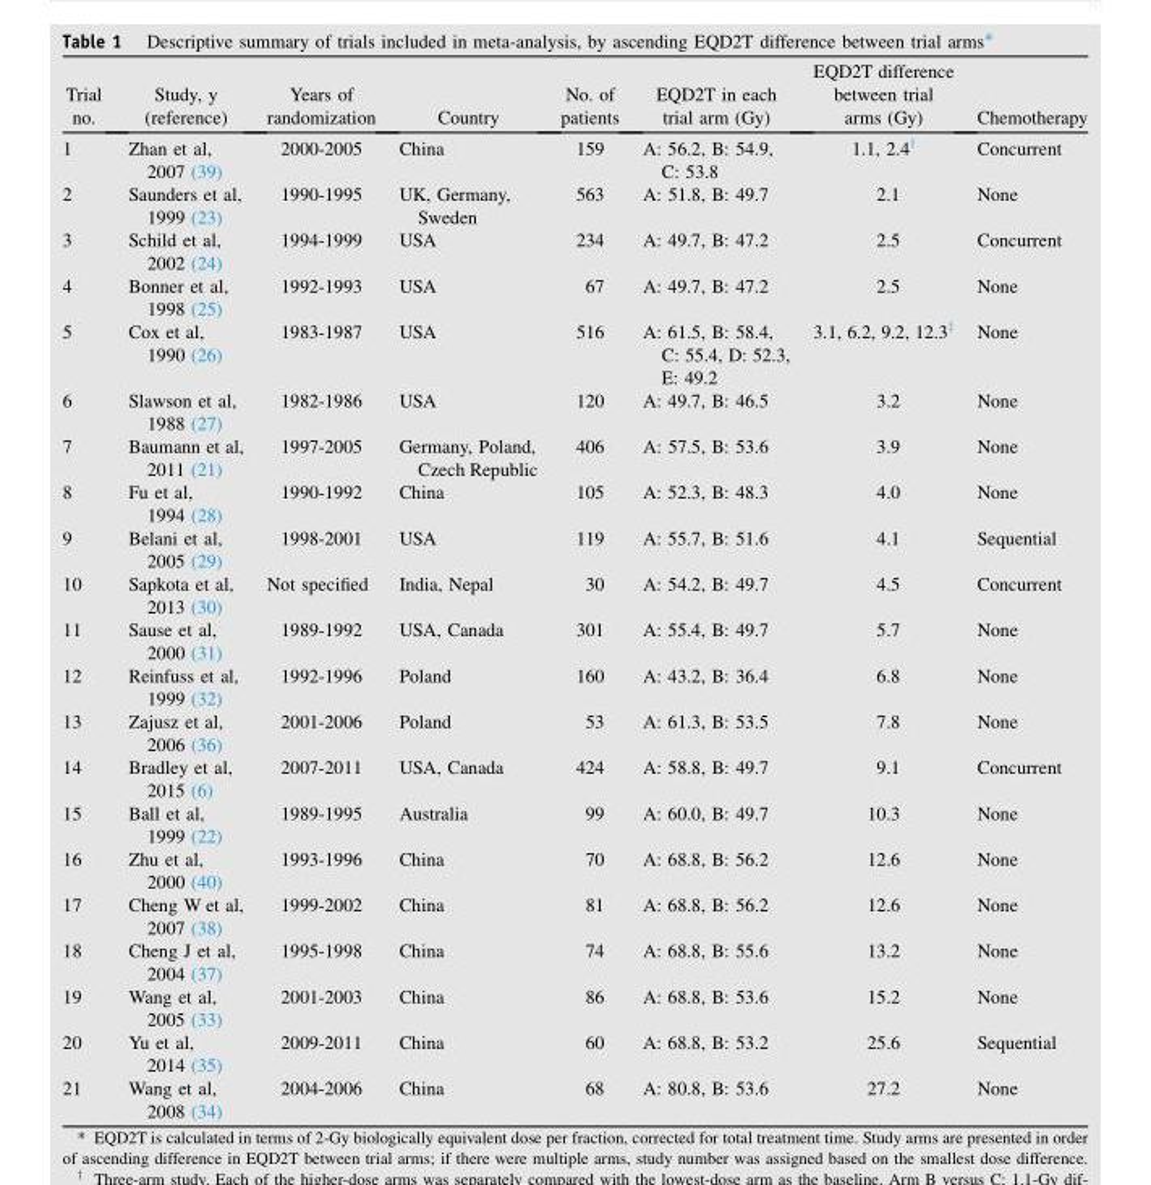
<table><thead><tr><td>Trial no.</td><td>Study, y (reference)</td><td>Years of randomization</td><td>Country</td><td>No. of patients</td><td>EQD2T in each trial arm (Gy)</td><td>EQD2T difference between trial arms (Gy)</td><td>Chemotherapy</td></tr></thead><tbody><tr><td>1</td><td>Zhan et al, 2007 (39)</td><td>2000-2005</td><td>China</td><td>159</td><td>A: 56.2, B: 54.9, C: 53.8</td><td>1.1, 2.4†</td><td>Concurrent</td></tr><tr><td>2</td><td>Saunders et al, 1999 (23)</td><td>1990-1995</td><td>UK, Germany, Sweden</td><td>563</td><td>A: 51.8, B: 49.7</td><td>2.1</td><td>None</td></tr><tr><td>3</td><td>Schild et al, 2002 (24)</td><td>1994-1999</td><td>USA</td><td>234</td><td>A: 49.7, B: 47.2</td><td>2.5</td><td>Concurrent</td></tr><tr><td>4</td><td>Bonner et al, 1998 (25)</td><td>1992-1993</td><td>USA</td><td>67</td><td>A: 49.7, B: 47.2</td><td>2.5</td><td>None</td></tr><tr><td>5</td><td>Cox et al, 1990 (26)</td><td>1983-1987</td><td>USA</td><td>516</td><td>A: 61.5, B: 58.4, C: 55.4, D: 52.3, E: 49.2</td><td>3.1, 6.2, 9.2, 12.3‡</td><td>None</td></tr><tr><td>6</td><td>Slawson et al, 1988 (27)</td><td>1982-1986</td><td>USA</td><td>120</td><td>A: 49.7, B: 46.5</td><td>3.2</td><td>None</td></tr><tr><td>7</td><td>Baumann et al, 2011 (21)</td><td>1997-2005</td><td>Germany, Poland, Czech Republic</td><td>406</td><td>A: 57.5, B: 53.6</td><td>3.9</td><td>None</td></tr><tr><td>8</td><td>Fu et al, 1994 (28)</td><td>1990-1992</td><td>China</td><td>105</td><td>A: 52.3, B: 48.3</td><td>4.0</td><td>None</td></tr><tr><td>9</td><td>Belani et al, 2005 (29)</td><td>1998-2001</td><td>USA</td><td>119</td><td>A: 55.7, B: 51.6</td><td>4.1</td><td>Sequential</td></tr><tr><td>10</td><td>Sapkota et al, 2013 (30)</td><td>Not specified</td><td>India, Nepal</td><td>30</td><td>A: 54.2, B: 49.7</td><td>4.5</td><td>Concurrent</td></tr><tr><td>11</td><td>Sause et al, 2000 (31)</td><td>1989-1992</td><td>USA, Canada</td><td>301</td><td>A: 55.4, B: 49.7</td><td>5.7</td><td>None</td></tr><tr><td>12</td><td>Reinfuss et al, 1999 (32)</td><td>1992-1996</td><td>Poland</td><td>160</td><td>A: 43.2, B: 36.4</td><td>6.8</td><td>None</td></tr><tr><td>13</td><td>Zajusz et al, 2006 (36)</td><td>2001-2006</td><td>Poland</td><td>53</td><td>A: 61.3, B: 53.5</td><td>7.8</td><td>None</td></tr><tr><td>14</td><td>Bradley et al, 2015 (6)</td><td>2007-2011</td><td>USA, Canada</td><td>424</td><td>A: 58.8, B: 49.7</td><td>9.1</td><td>Concurrent</td></tr><tr><td>15</td><td>Ball et al, 1999 (22)</td><td>1989-1995</td><td>Australia</td><td>99</td><td>A: 60.0, B: 49.7</td><td>10.3</td><td>None</td></tr><tr><td>16</td><td>Zhu et al, 2000 (40)</td><td>1993-1996</td><td>China</td><td>70</td><td>A: 68.8, B: 56.2</td><td>12.6</td><td>None</td></tr><tr><td>17</td><td>Cheng W et al, 2007 (38)</td><td>1999-2002</td><td>China</td><td>81</td><td>A: 68.8, B: 56.2</td><td>12.6</td><td>None</td></tr><tr><td>18</td><td>Cheng J et al, 2004 (37)</td><td>1995-1998</td><td>China</td><td>74</td><td>A: 68.8, B: 55.6</td><td>13.2</td><td>None</td></tr><tr><td>19</td><td>Wang et al, 2005 (33)</td><td>2001-2003</td><td>China</td><td>86</td><td>A: 68.8, B: 53.6</td><td>15.2</td><td>None</td></tr><tr><td>20</td><td>Yu et al, 2014 (35)</td><td>2009-2011</td><td>China</td><td>60</td><td>A: 68.8, B: 53.2</td><td>25.6</td><td>Sequential</td></tr><tr><td>21</td><td>Wang et al, 2008 (34)</td><td>2004-2006</td><td>China</td><td>68</td><td>A: 80.8, B: 53.6</td><td>27.2</td><td>None</td></tr></tbody></table>